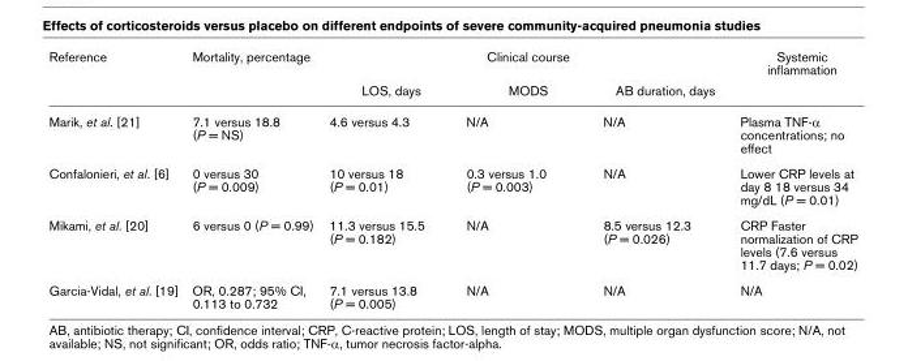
<table><thead><tr><td rowspan="2">Reference</td><td rowspan="2">Mortality, percentage</td><td colspan="3">Clinical course</td><td rowspan="2">Systemic inflammation</td></tr><tr><td>LOS, days</td><td>MODS</td><td>AB duration, days</td></tr></thead><tbody><tr><td>Marik, et al. [21]</td><td>7.1 versus 18.8 (P = NS)</td><td>4.6 versus 4.3</td><td>N/A</td><td>N/A</td><td>Plasma TNF-α concentrations; no effect</td></tr><tr><td>Confalonieri, et al. [6]</td><td>0 versus 30 (P = 0.009)</td><td>10 versus 18 (P = 0.01)</td><td>0.3 versus 1.0 (P = 0.003)</td><td>N/A</td><td>Lower CRP levels at day 8 18 versus 34 mg/dL (P = 0.01)</td></tr><tr><td>Mikami, et al. [20]</td><td>6 versus 0 (P = 0.99)</td><td>11.3 versus 15.5 (P = 0.182)</td><td>N/A</td><td>8.5 versus 12.3 (P = 0.026)</td><td>CRP Faster normalization of CRP levels (7.6 versus 11.7 days; P = 0.02)</td></tr><tr><td>Garcia-Vidal, et al. [19]</td><td>OR, 0.287; 95% CI, 0.113 to 0.732</td><td>7.1 versus 13.8 (P = 0.005)</td><td>N/A</td><td>N/A</td><td>N/A</td></tr></tbody></table>